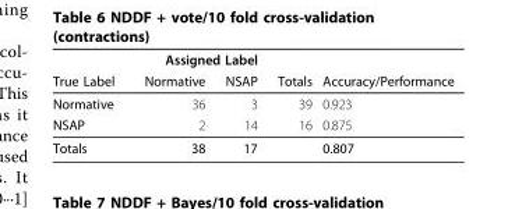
<table><thead><tr><td rowspan="2">True Label</td><td colspan="2">Assigned Label</td><td rowspan="2">Totals</td><td rowspan="2">Accuracy/Performance</td></tr><tr><td>Normative</td><td>NSAP</td></tr></thead><tbody><tr><td>Normative</td><td>36</td><td>3</td><td>39</td><td>0.923</td></tr><tr><td>NSAP</td><td>2</td><td>14</td><td>16</td><td>0.875</td></tr><tr><td>Totals</td><td>38</td><td>17</td><td></td><td>0.807</td></tr></tbody></table>